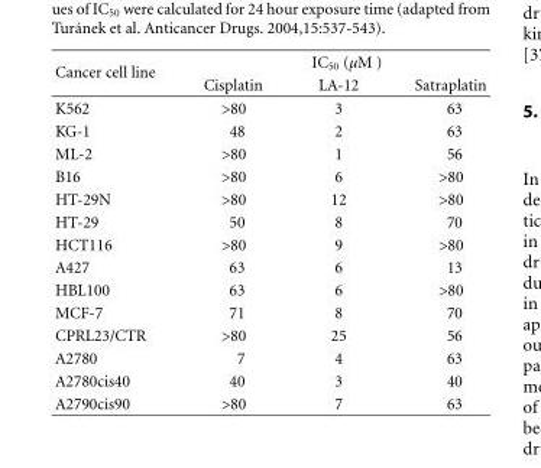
<table><thead><tr><td rowspan="2">Cancer cell line</td><td colspan="3">IC<sub>50</sub> (μM )</td></tr><tr><td>Cisplatin</td><td>LA-12</td><td>Satraplatin</td></tr></thead><tbody><tr><td>K562</td><td>&gt;80</td><td>3</td><td>63</td></tr><tr><td>KG-1</td><td>48</td><td>2</td><td>63</td></tr><tr><td>ML-2</td><td>&gt;80</td><td>1</td><td>56</td></tr><tr><td>B16</td><td>&gt;80</td><td>6</td><td>&gt;80</td></tr><tr><td>HT-29N</td><td>&gt;80</td><td>12</td><td>&gt;80</td></tr><tr><td>HT-29</td><td>50</td><td>8</td><td>70</td></tr><tr><td>HCT116</td><td>&gt;80</td><td>9</td><td>&gt;80</td></tr><tr><td>A427</td><td>63</td><td>6</td><td>13</td></tr><tr><td>HBL100</td><td>63</td><td>6</td><td>&gt;80</td></tr><tr><td>MCF-7</td><td>71</td><td>8</td><td>70</td></tr><tr><td>CPRL23/CTR</td><td>&gt;80</td><td>25</td><td>56</td></tr><tr><td>A2780</td><td>7</td><td>4</td><td>63</td></tr><tr><td>A2780cis40</td><td>40</td><td>3</td><td>40</td></tr><tr><td>A2790cis90</td><td>&gt;80</td><td>7</td><td>63</td></tr></tbody></table>